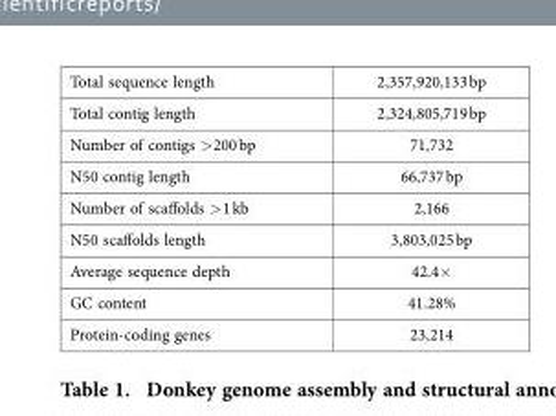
<table><tbody><tr><td>Total sequence length</td><td>2,357,920,133 bp</td></tr><tr><td>Total contig length</td><td>2,324,805,719 bp</td></tr><tr><td>Number of contigs &gt; 200 bp</td><td>71,732</td></tr><tr><td>N50 contig length</td><td>66,737 bp</td></tr><tr><td>Number of scaffolds &gt; 1 kb</td><td>2,166</td></tr><tr><td>N50 scaffolds length</td><td>3,803,025 bp</td></tr><tr><td>Average sequence depth</td><td>42.4×</td></tr><tr><td>GC content</td><td>41.28%</td></tr><tr><td>Protein-coding genes</td><td>23,214</td></tr></tbody></table>